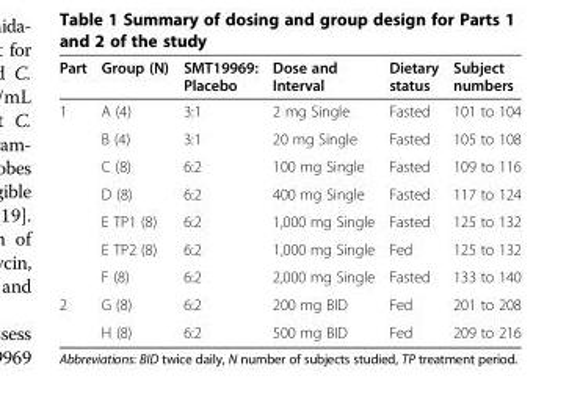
<table><thead><tr><td>Part</td><td>Group (N)</td><td>SMT19969: Placebo</td><td>Dose and Interval</td><td>Dietary status</td><td>Subject numbers</td></tr></thead><tbody><tr><td rowspan="7">1</td><td>A (4)</td><td>3:1</td><td>2 mg Single</td><td>Fasted</td><td>101 to 104</td></tr><tr><td>B (4)</td><td>3:1</td><td>20 mg Single</td><td>Fasted</td><td>105 to 108</td></tr><tr><td>C (8)</td><td>6:2</td><td>100 mg Single</td><td>Fasted</td><td>109 to 116</td></tr><tr><td>D (8)</td><td>6:2</td><td>400 mg Single</td><td>Fasted</td><td>117 to 124</td></tr><tr><td>E TP1 (8)</td><td>6:2</td><td>1,000 mg Single</td><td>Fasted</td><td>125 to 132</td></tr><tr><td>E TP2 (8)</td><td>6:2</td><td>1,000 mg Single</td><td>Fed</td><td>125 to 132</td></tr><tr><td>F (8)</td><td>6:2</td><td>2,000 mg Single</td><td>Fasted</td><td>133 to 140</td></tr><tr><td rowspan="2">2</td><td>G (8)</td><td>6:2</td><td>200 mg BID</td><td>Fed</td><td>201 to 208</td></tr><tr><td>H (8)</td><td>6:2</td><td>500 mg BID</td><td>Fed</td><td>209 to 216</td></tr></tbody></table>